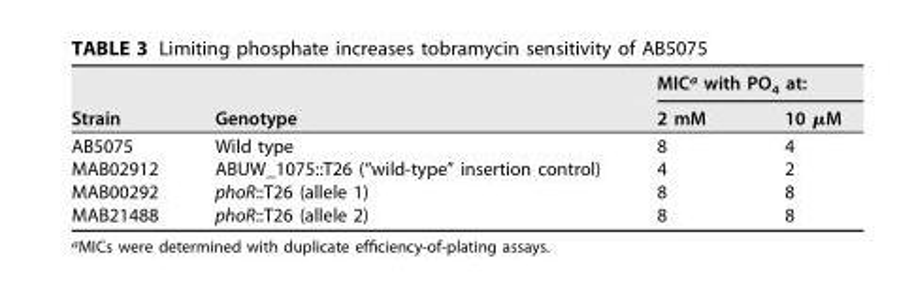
<table><thead><tr><td rowspan="2">Strain</td><td rowspan="2">Genotype</td><td colspan="2">MIC<sup>a</sup> with PO<sub>4</sub> at:</td></tr><tr><td>2 mM</td><td>10 µM</td></tr></thead><tbody><tr><td>AB5075</td><td>Wild type</td><td>8</td><td>4</td></tr><tr><td>MAB02912</td><td>ABUW_1075::T26 (“wild-type” insertion control)</td><td>4</td><td>2</td></tr><tr><td>MAB00292</td><td>phoR::T26 (allele 1)</td><td>8</td><td>8</td></tr><tr><td>MAB21488</td><td>phoR::T26 (allele 2)</td><td>8</td><td>8</td></tr></tbody></table>